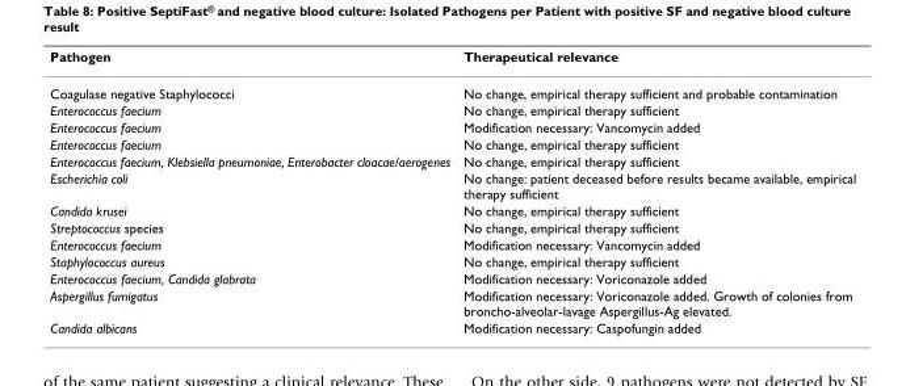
<table><thead><tr><td>Pathogen</td><td>Therapeutical relevance</td></tr></thead><tbody><tr><td>Coagulase negative Staphylococci</td><td>No change, empirical therapy sufficient and probable contamination</td></tr><tr><td>Enterococcus faecium</td><td>No change, empirical therapy sufficient</td></tr><tr><td>Enterococcus faecium</td><td>Modification necessary: Vancomycin added</td></tr><tr><td>Enterococcus faecium</td><td>No change, empirical therapy sufficient</td></tr><tr><td>Enterococcus faecium, Klebsiella pneumoniae, Enterobacter cloacae/aerogenes</td><td>No change, empirical therapy sufficient</td></tr><tr><td>Escherichia coli</td><td>No change: patient deceased before results became available, empirical therapy sufficient</td></tr><tr><td>Candida krusei</td><td>No change, empirical therapy sufficient</td></tr><tr><td>Streptococcus species</td><td>No change, empirical therapy sufficient</td></tr><tr><td>Enterococcus faecium</td><td>Modification necessary: Vancomycin added</td></tr><tr><td>Staphylococcus aureus</td><td>No change, empirical therapy sufficient</td></tr><tr><td>Enterococcus faecium, Candida glabrata</td><td>Modification necessary: Voriconazole added</td></tr><tr><td>Aspergillus fumigatus</td><td>Modification necessary: Voriconazole added. Growth of colonies from broncho-alveolar-lavage Aspergillus-Ag elevated.</td></tr><tr><td>Candida albicans</td><td>Modification necessary: Caspofungin added</td></tr></tbody></table>